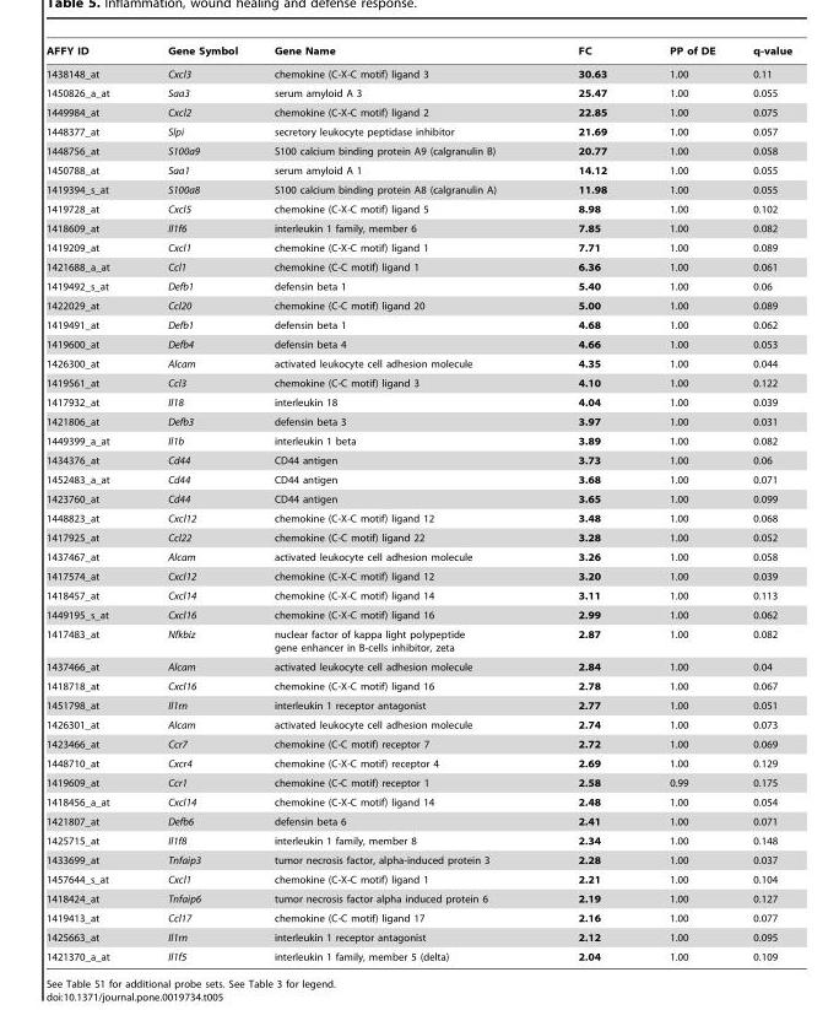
<table><thead><tr><td>AFFY ID</td><td>Gene Symbol</td><td>Gene Name</td><td>FC</td><td>PP of DE</td><td>q-value</td></tr></thead><tbody><tr><td>1438148_at</td><td>Cxcl3</td><td>chemokine (C-X-C motif) ligand 3</td><td>30.63</td><td>1.00</td><td>0.11</td></tr><tr><td>1450826_a_at</td><td>Saa3</td><td>serum amyloid A 3</td><td>25.47</td><td>1.00</td><td>0.055</td></tr><tr><td>1449984_at</td><td>Cxcl2</td><td>chemokine (C-X-C motif) ligand 2</td><td>22.85</td><td>1.00</td><td>0.075</td></tr><tr><td>1448377_at</td><td>Slpi</td><td>secretory leukocyte peptidase inhibitor</td><td>21.69</td><td>1.00</td><td>0.057</td></tr><tr><td>1448756_at</td><td>S100a9</td><td>S100 calcium binding protein A9 (calgranulin B)</td><td>20.77</td><td>1.00</td><td>0.058</td></tr><tr><td>1450788_at</td><td>Saa1</td><td>serum amyloid A 1</td><td>14.12</td><td>1.00</td><td>0.055</td></tr><tr><td>1419394_s_at</td><td>S100a8</td><td>S100 calcium binding protein A8 (calgranulin A)</td><td>11.98</td><td>1.00</td><td>0.055</td></tr><tr><td>1419728_at</td><td>Cxcl5</td><td>chemokine (C-X-C motif) ligand 5</td><td>8.98</td><td>1.00</td><td>0.102</td></tr><tr><td>1418609_at</td><td>Il1f6</td><td>interleukin 1 family, member 6</td><td>7.85</td><td>1.00</td><td>0.082</td></tr><tr><td>1419209_at</td><td>Cxcl1</td><td>chemokine (C-X-C motif) ligand 1</td><td>7.71</td><td>1.00</td><td>0.089</td></tr><tr><td>1421688_a_at</td><td>Ccl1</td><td>chemokine (C-C motif) ligand 1</td><td>6.36</td><td>1.00</td><td>0.061</td></tr><tr><td>1419492_s_at</td><td>Defb1</td><td>defensin beta 1</td><td>5.40</td><td>1.00</td><td>0.06</td></tr><tr><td>1422029_at</td><td>Ccl20</td><td>chemokine (C-C motif) ligand 20</td><td>5.00</td><td>1.00</td><td>0.089</td></tr><tr><td>1419491_at</td><td>Defb1</td><td>defensin beta 1</td><td>4.68</td><td>1.00</td><td>0.062</td></tr><tr><td>1419600_at</td><td>Defb4</td><td>defensin beta 4</td><td>4.66</td><td>1.00</td><td>0.053</td></tr><tr><td>1426300_at</td><td>Alcam</td><td>activated leukocyte cell adhesion molecule</td><td>4.35</td><td>1.00</td><td>0.044</td></tr><tr><td>1419561_at</td><td>Ccl3</td><td>chemokine (C-C motif) ligand 3</td><td>4.10</td><td>1.00</td><td>0.122</td></tr><tr><td>1417932_at</td><td>Il18</td><td>interleukin 18</td><td>4.04</td><td>1.00</td><td>0.039</td></tr><tr><td>1421806_at</td><td>Defb3</td><td>defensin beta 3</td><td>3.97</td><td>1.00</td><td>0.031</td></tr><tr><td>1449399_a_at</td><td>Il1b</td><td>interleukin 1 beta</td><td>3.89</td><td>1.00</td><td>0.082</td></tr><tr><td>1434376_at</td><td>Cd44</td><td>CD44 antigen</td><td>3.73</td><td>1.00</td><td>0.06</td></tr><tr><td>1452483_a_at</td><td>Cd44</td><td>CD44 antigen</td><td>3.68</td><td>1.00</td><td>0.071</td></tr><tr><td>1423760_at</td><td>Cd44</td><td>CD44 antigen</td><td>3.65</td><td>1.00</td><td>0.099</td></tr><tr><td>1448823_at</td><td>Cxcl12</td><td>chemokine (C-X-C motif) ligand 12</td><td>3.48</td><td>1.00</td><td>0.068</td></tr><tr><td>1417925_at</td><td>Ccl22</td><td>chemokine (C-C motif) ligand 22</td><td>3.28</td><td>1.00</td><td>0.052</td></tr><tr><td>1437467_at</td><td>Alcam</td><td>activated leukocyte cell adhesion molecule</td><td>3.26</td><td>1.00</td><td>0.058</td></tr><tr><td>1417574_at</td><td>Cxcl12</td><td>chemokine (C-X-C motif) ligand 12</td><td>3.20</td><td>1.00</td><td>0.039</td></tr><tr><td>1418457_at</td><td>Cxcl14</td><td>chemokine (C-X-C motif) ligand 14</td><td>3.11</td><td>1.00</td><td>0.113</td></tr><tr><td>1449195_s_at</td><td>Cxcl16</td><td>chemokine (C-X-C motif) ligand 16</td><td>2.99</td><td>1.00</td><td>0.062</td></tr><tr><td>1417483_at</td><td>Nfkbiz</td><td>nuclear factor of kappa light polypeptide gene enhancer in B-cells inhibitor, zeta</td><td>2.87</td><td>1.00</td><td>0.082</td></tr><tr><td>1437466_at</td><td>Alcam</td><td>activated leukocyte cell adhesion molecule</td><td>2.84</td><td>1.00</td><td>0.04</td></tr><tr><td>1418718_at</td><td>Cxcl16</td><td>chemokine (C-X-C motif) ligand 16</td><td>2.78</td><td>1.00</td><td>0.067</td></tr><tr><td>1451798_at</td><td>Il1rn</td><td>interleukin 1 receptor antagonist</td><td>2.77</td><td>1.00</td><td>0.051</td></tr><tr><td>1426301_at</td><td>Alcam</td><td>activated leukocyte cell adhesion molecule</td><td>2.74</td><td>1.00</td><td>0.073</td></tr><tr><td>1423466_at</td><td>Ccr7</td><td>chemokine (C-C motif) receptor 7</td><td>2.72</td><td>1.00</td><td>0.069</td></tr><tr><td>1448710_at</td><td>Cxcr4</td><td>chemokine (C-X-C motif) receptor 4</td><td>2.69</td><td>1.00</td><td>0.129</td></tr><tr><td>1419609_at</td><td>Ccr1</td><td>chemokine (C-C motif) receptor 1</td><td>2.58</td><td>0.99</td><td>0.175</td></tr><tr><td>1418456_a_at</td><td>Cxcl14</td><td>chemokine (C-X-C motif) ligand 14</td><td>2.48</td><td>1.00</td><td>0.054</td></tr><tr><td>1421807_at</td><td>Defb6</td><td>defensin beta 6</td><td>2.41</td><td>1.00</td><td>0.071</td></tr><tr><td>1425715_at</td><td>Il1f8</td><td>interleukin 1 family, member 8</td><td>2.34</td><td>1.00</td><td>0.148</td></tr><tr><td>1433699_at</td><td>Tnfaip3</td><td>tumor necrosis factor, alpha-induced protein 3</td><td>2.28</td><td>1.00</td><td>0.037</td></tr><tr><td>1457644_s_at</td><td>Cxcl1</td><td>chemokine (C-X-C motif) ligand 1</td><td>2.21</td><td>1.00</td><td>0.104</td></tr><tr><td>1418424_at</td><td>Tnfaip6</td><td>tumor necrosis factor alpha induced protein 6</td><td>2.19</td><td>1.00</td><td>0.127</td></tr><tr><td>1419413_at</td><td>Ccl17</td><td>chemokine (C-C motif) ligand 17</td><td>2.16</td><td>1.00</td><td>0.077</td></tr><tr><td>1425663_at</td><td>Il1rn</td><td>interleukin 1 receptor antagonist</td><td>2.12</td><td>1.00</td><td>0.095</td></tr><tr><td>1421370_a_at</td><td>Il1f5</td><td>interleukin 1 family, member 5 (delta)</td><td>2.04</td><td>1.00</td><td>0.109</td></tr></tbody></table>